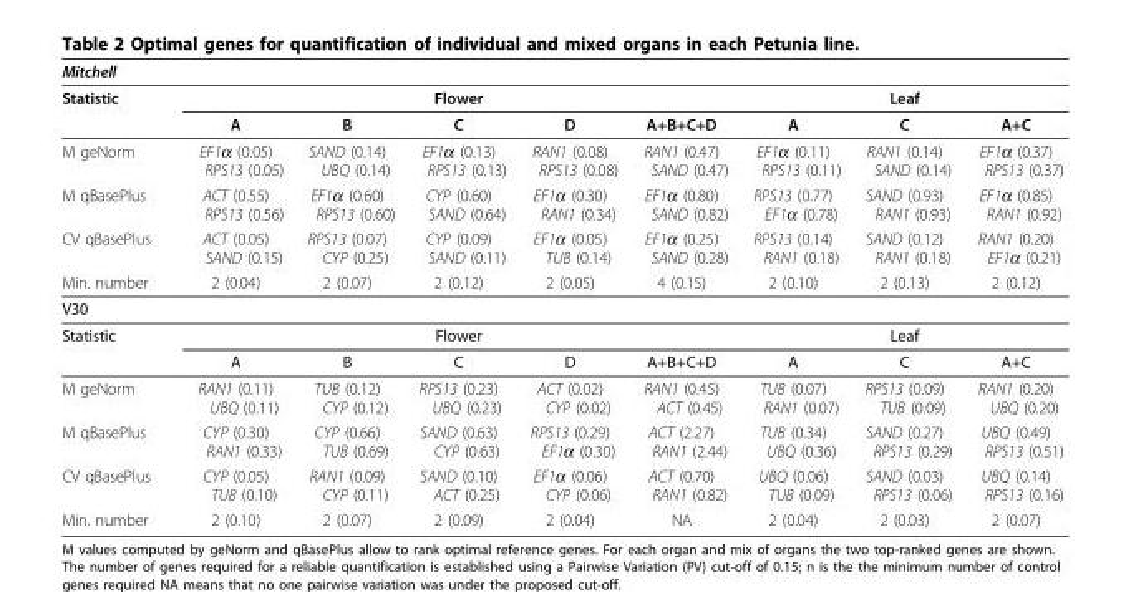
<table><tbody><tr><td colspan="9">Mitchell</td></tr><tr><td rowspan="2">Statistic</td><td colspan="5">Flower</td><td colspan="3">Leaf</td></tr><tr><td>A</td><td>B</td><td>C</td><td>D</td><td>A+B+C+D</td><td>A</td><td>C</td><td>A+C</td></tr><tr><td>M geNorm</td><td>EF1α (0.05) RPS13 (0.05)</td><td>SAND (0.14) UBQ (0.14)</td><td>EF1α (0.13) RPS13 (0.13)</td><td>RAN1 (0.08) RPS13 (0.08)</td><td>RAN1 (0.47) SAND (0.47)</td><td>EF1α (0.11) RPS13 (0.11)</td><td>RAN1 (0.14) SAND (0.14)</td><td>EF1α (0.37) RPS13 (0.37)</td></tr><tr><td>M qBasePlus</td><td>ACT (0.55) RPS13 (0.56)</td><td>EF1α (0.60) RPS13 (0.60)</td><td>CYP (0.60) SAND (0.64)</td><td>EF1α (0.30) RAN1 (0.34)</td><td>EF1α (0.80) SAND (0.82)</td><td>RPS13 (0.77) EF1α (0.78)</td><td>SAND (0.93) RAN1 (0.93)</td><td>EF1α (0.85) RAN1 (0.92)</td></tr><tr><td>CV qBasePlus</td><td>ACT (0.05) SAND (0.15)</td><td>RPS13 (0.07) CYP (0.25)</td><td>CYP (0.09) SAND (0.11)</td><td>EF1α (0.05) TUB (0.14)</td><td>EF1α (0.25) SAND (0.28)</td><td>RPS13 (0.14) RAN1 (0.18)</td><td>SAND (0.12) RAN1 (0.18)</td><td>RAN1 (0.20) EF1α (0.21)</td></tr><tr><td>Min. number</td><td>2 (0.04)</td><td>2 (0.07)</td><td>2 (0.12)</td><td>2 (0.05)</td><td>4 (0.15)</td><td>2 (0.10)</td><td>2 (0.13)</td><td>2 (0.12)</td></tr><tr><td colspan="9">V30</td></tr><tr><td rowspan="2">Statistic</td><td colspan="5">Flower</td><td colspan="3">Leaf</td></tr><tr><td>A</td><td>B</td><td>C</td><td>D</td><td>A+B+C+D</td><td>A</td><td>C</td><td>A+C</td></tr><tr><td>M geNorm</td><td>RAN1 (0.11) UBQ (0.11)</td><td>TUB (0.12) CYP (0.12)</td><td>RPS13 (0.23) UBQ (0.23)</td><td>ACT (0.02) CYP (0.02)</td><td>RAN1 (0.45) ACT (0.45)</td><td>TUB (0.07) RAN1 (0.07)</td><td>RPS13 (0.09) TUB (0.09)</td><td>RAN1 (0.20) UBQ (0.20)</td></tr><tr><td>M qBasePlus</td><td>CYP (0.30) RAN1 (0.33)</td><td>CYP (0.66) TUB (0.69)</td><td>SAND (0.63) CYP (0.63)</td><td>RPS13 (0.29) EF1α (0.30)</td><td>ACT (2.27) RAN1 (2.44)</td><td>TUB (0.34) UBQ (0.36)</td><td>SAND (0.27) RPS13 (0.29)</td><td>UBQ (0.49) RPS13 (0.51)</td></tr><tr><td>CV qBasePlus</td><td>CYP (0.05) TUB (0.10)</td><td>RAN1 (0.09) CYP (0.11)</td><td>SAND (0.10) ACT (0.25)</td><td>EF1α (0.06) CYP (0.06)</td><td>ACT (0.70) RAN1 (0.82)</td><td>UBQ (0.06) TUB (0.09)</td><td>SAND (0.03) RPS13 (0.06)</td><td>UBQ (0.14) RPS13 (0.16)</td></tr><tr><td>Min. number</td><td>2 (0.10)</td><td>2 (0.07)</td><td>2 (0.09)</td><td>2 (0.04)</td><td>NA</td><td>2 (0.04)</td><td>2 (0.03)</td><td>2 (0.07)</td></tr></tbody></table>